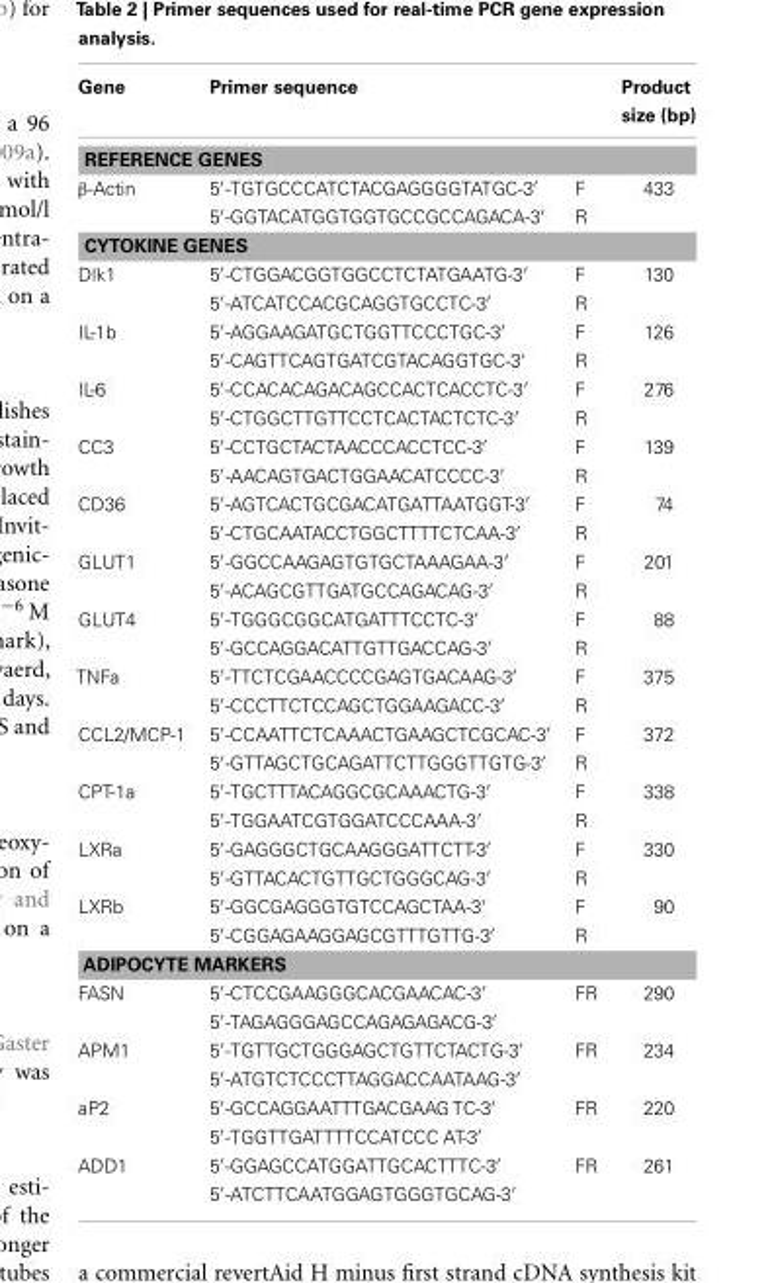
<table><thead><tr><td>Gene</td><td>Primer sequence</td><td></td><td>Product size (bp)</td></tr></thead><tbody><tr><td colspan="4">REFERENCE GENES</td></tr><tr><td rowspan="2">β-Actin</td><td>5′-TGTGCCCATCTACGAGGGGTATGC-3′</td><td>F</td><td>433</td></tr><tr><td>5′-GGTACATGGTGGTGCCGCCAGACA-3′</td><td>R</td><td></td></tr><tr><td colspan="4">CYTOKINE GENES</td></tr><tr><td rowspan="2">Dlk1</td><td>5′-CTGGACGGTGGCCTCTATGAATG-3′</td><td>F</td><td>130</td></tr><tr><td>5′-ATCATCCACGCAGGTGCCTC-3′</td><td>R</td><td></td></tr><tr><td rowspan="2">IL-1b</td><td>5′-AGGAAGATGCTGGTTCCCTGC-3′</td><td>F</td><td>126</td></tr><tr><td>5′-CAGTTCAGTGATCGTACAGGTGC-3′</td><td>R</td><td></td></tr><tr><td rowspan="2">IL-6</td><td>5′-CCACACAGACAGCCACTCACCTC-3′</td><td>F</td><td>276</td></tr><tr><td>5′-CTGGCTTGTTCCTCACTACTCTC-3′</td><td>R</td><td></td></tr><tr><td rowspan="2">CC3</td><td>5′-CCTGCTACTAACCCACCTCC-3′</td><td>F</td><td>139</td></tr><tr><td>5′-AACAGTGACTGGAACATCCCC-3′</td><td>R</td><td></td></tr><tr><td rowspan="2">CD36</td><td>5′-AGTCACTGCGACATGATTAATGGT-3′</td><td>F</td><td>74</td></tr><tr><td>5′-CTGCAATACCTGGCTTTTCTCAA-3′</td><td>R</td><td></td></tr><tr><td rowspan="2">GLUT1</td><td>5′-GGCCAAGAGTGTGCTAAAGAA-3′</td><td>F</td><td>201</td></tr><tr><td>5′-ACAGCGTTGATGCCAGACAG-3′</td><td>R</td><td></td></tr><tr><td rowspan="2">GLUT4</td><td>5′-TGGGCGGCATGATTTCCTC-3′</td><td>F</td><td>88</td></tr><tr><td>5′-GCCAGGACATTGTTGACCAG-3′</td><td>R</td><td></td></tr><tr><td rowspan="2">TNFa</td><td>5′-TTCTCGAACCCCGAGTGACAAG-3′</td><td>F</td><td>375</td></tr><tr><td>5′-CCCTTCTCCAGCTGGAAGACC-3′</td><td>R</td><td></td></tr><tr><td rowspan="2">CCL2/MCP-1</td><td>5′-CCAATTCTCAAACTGAAGCTCGCAC-3′</td><td>F</td><td>372</td></tr><tr><td>5′-GTTAGCTGCAGATTCTTGGGTTGTG-3′</td><td>R</td><td></td></tr><tr><td rowspan="2">CPT-1a</td><td>5′-TGCTTTACAGGCGCAAACTG-3′</td><td>F</td><td>338</td></tr><tr><td>5′-TGGAATCGTGGATCCCAAA-3′</td><td>R</td><td></td></tr><tr><td rowspan="2">LXRa</td><td>5′-GAGGGCTGCAAGGGATTCTT-3′</td><td>F</td><td>330</td></tr><tr><td>5′-GTTACACTGTTGCTGGGCAG-3′</td><td>R</td><td></td></tr><tr><td rowspan="2">LXRb</td><td>5′-GGCGAGGGTGTCCAGCTAA-3′</td><td>F</td><td>90</td></tr><tr><td>5′-CGGAGAAGGAGCGTTTGTTG-3′</td><td>R</td><td></td></tr><tr><td colspan="4">ADIPOCYTE MARKERS</td></tr><tr><td rowspan="2">FASN</td><td>5′-CTCCGAAGGGCACGAACAC-3′</td><td>FR</td><td>290</td></tr><tr><td>5′-TAGAGGGAGCCAGAGAGACG-3′</td><td></td><td></td></tr><tr><td rowspan="2">APM1</td><td>5′-TGTTGCTGGGAGCTGTTCTACTG-3′</td><td>FR</td><td>234</td></tr><tr><td>5′-ATGTCTCCCTTAGGACCAATAAG-3′</td><td></td><td></td></tr><tr><td rowspan="2">aP2</td><td>5′-GCCAGGAATTTGACGAAG TC-3′</td><td>FR</td><td>220</td></tr><tr><td>5′-TGGTTGATTTTCCATCCC AT-3′</td><td></td><td></td></tr><tr><td rowspan="2">ADD1</td><td>5′-GGAGCCATGGATTGCACTTTC-3′</td><td>FR</td><td>261</td></tr><tr><td>5′-ATCTTCAATGGAGTGGGTGCAG-3′</td><td></td><td></td></tr></tbody></table>